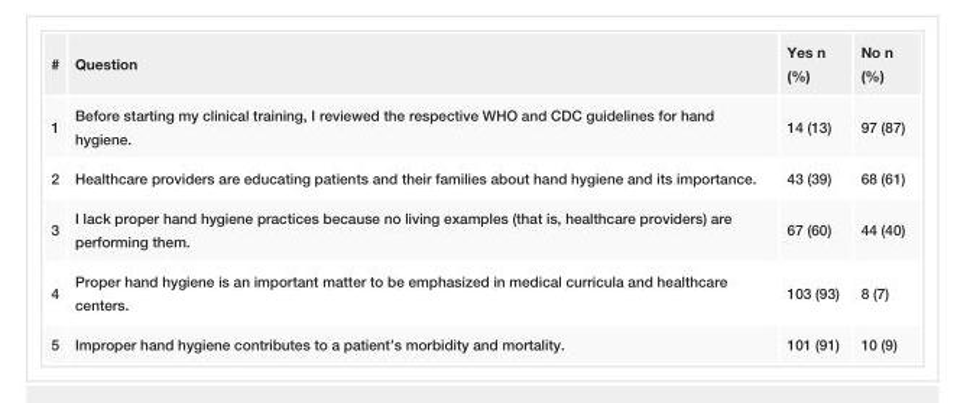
<table><tbody><tr><td>#</td><td>Question</td><td>Yes n (%)</td><td>No n (%)</td></tr><tr><td>1</td><td>Before starting my clinical training, I reviewed the respective WHO and CDC guidelines for hand hygiene.</td><td>14 (13)</td><td>97 (87)</td></tr><tr><td>2</td><td>Healthcare providers are educating patients and their families about hand hygiene and its importance.</td><td>43 (39)</td><td>68 (61)</td></tr><tr><td>3</td><td>I lack proper hand hygiene practices because no living examples (that is, healthcare providers) are performing them.</td><td>67 (60)</td><td>44 (40)</td></tr><tr><td>4</td><td>Proper hand hygiene is an important matter to be emphasized in medical curricula and healthcare centers.</td><td>103 (93)</td><td>8 (7)</td></tr><tr><td>5</td><td>Improper hand hygiene contributes to a patient’s morbidity and mortality.</td><td>101 (91)</td><td>10 (9)</td></tr></tbody></table>